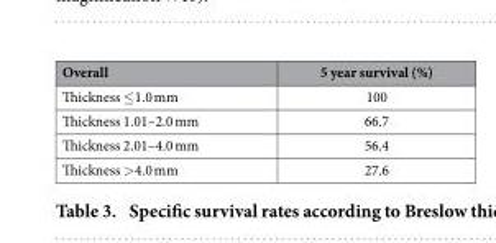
<table><thead><tr><td>Overall</td><td>5 year survival (%)</td></tr></thead><tbody><tr><td>Thickness ≤ 1.0 mm</td><td>100</td></tr><tr><td>Thickness 1.01–2.0 mm</td><td>66.7</td></tr><tr><td>Thickness 2.01–4.0 mm</td><td>56.4</td></tr><tr><td>Thickness &gt; 4.0 mm</td><td>27.6</td></tr></tbody></table>